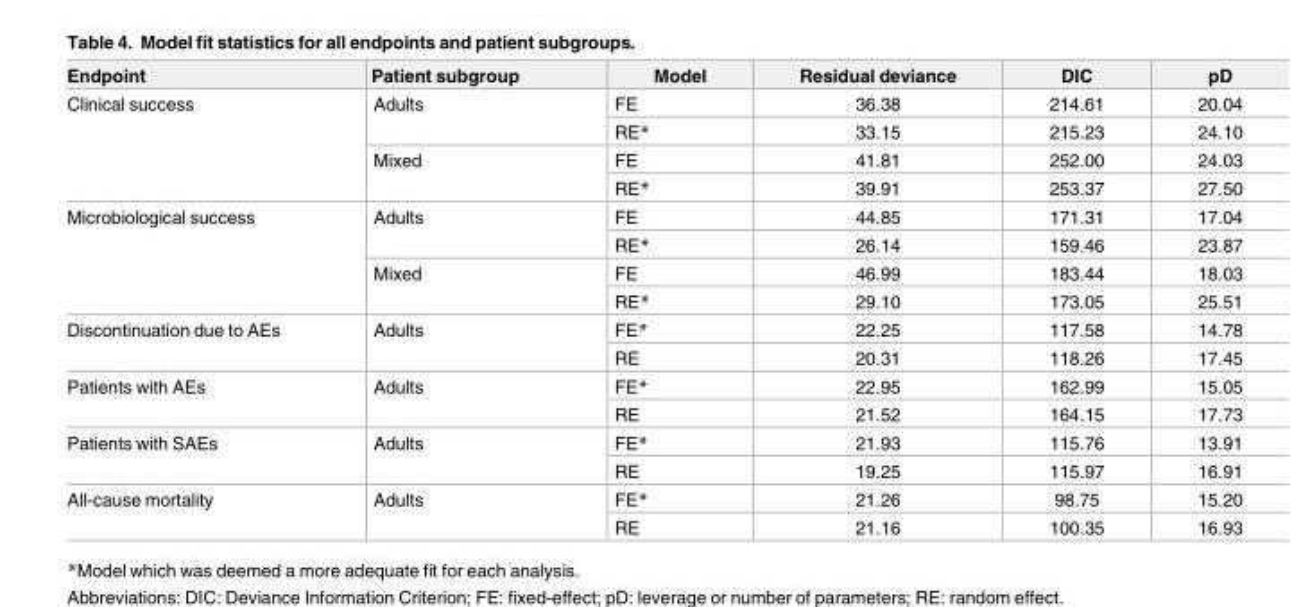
<table><thead><tr><td>Endpoint</td><td>Patient subgroup</td><td>Model</td><td>Residual deviance</td><td>DIC</td><td>pD</td></tr></thead><tbody><tr><td rowspan="4">Clinical success</td><td rowspan="2">Adults</td><td>FE</td><td>36.38</td><td>214.61</td><td>20.04</td></tr><tr><td>RE*</td><td>33.15</td><td>215.23</td><td>24.10</td></tr><tr><td rowspan="2">Mixed</td><td>FE</td><td>41.81</td><td>252.00</td><td>24.03</td></tr><tr><td>RE*</td><td>39.91</td><td>253.37</td><td>27.50</td></tr><tr><td rowspan="4">Microbiological success</td><td rowspan="2">Adults</td><td>FE</td><td>44.85</td><td>171.31</td><td>17.04</td></tr><tr><td>RE*</td><td>26.14</td><td>159.46</td><td>23.87</td></tr><tr><td rowspan="2">Mixed</td><td>FE</td><td>46.99</td><td>183.44</td><td>18.03</td></tr><tr><td>RE*</td><td>29.10</td><td>173.05</td><td>25.51</td></tr><tr><td rowspan="2">Discontinuation due to AEs</td><td rowspan="2">Adults</td><td>FE*</td><td>22.25</td><td>117.58</td><td>14.78</td></tr><tr><td>RE</td><td>20.31</td><td>118.26</td><td>17.45</td></tr><tr><td rowspan="2">Patients with AEs</td><td rowspan="2">Adults</td><td>FE*</td><td>22.95</td><td>162.99</td><td>15.05</td></tr><tr><td>RE</td><td>21.52</td><td>164.15</td><td>17.73</td></tr><tr><td rowspan="2">Patients with SAEs</td><td rowspan="2">Adults</td><td>FE*</td><td>21.93</td><td>115.76</td><td>13.91</td></tr><tr><td>RE</td><td>19.25</td><td>115.97</td><td>16.91</td></tr><tr><td rowspan="2">All-cause mortality</td><td rowspan="2">Adults</td><td>FE*</td><td>21.26</td><td>98.75</td><td>15.20</td></tr><tr><td>RE</td><td>21.16</td><td>100.35</td><td>16.93</td></tr></tbody></table>